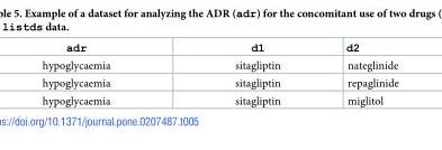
<table><thead><tr><td>adr</td><td>d1</td><td>d2</td></tr></thead><tbody><tr><td>hypoglycaemia</td><td>sitagliptin</td><td>nateglinide</td></tr><tr><td>hypoglycaemia</td><td>sitagliptin</td><td>repaglinide</td></tr><tr><td>hypoglycaemia</td><td>sitagliptin</td><td>miglitol</td></tr></tbody></table>